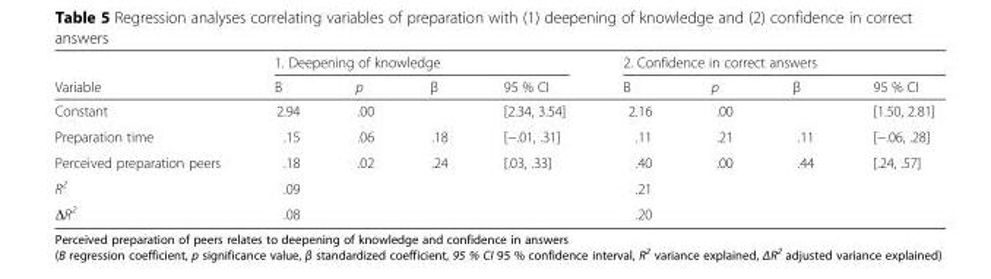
<table><thead><tr><td rowspan="2">Variable</td><td colspan="4">1. Deepening of knowledge</td><td colspan="4">2. Confidence in correct answers</td></tr><tr><td>B</td><td>p</td><td>β</td><td>95 % CI</td><td>B</td><td>p</td><td>β</td><td>95 % CI</td></tr></thead><tbody><tr><td>Constant</td><td>2.94</td><td>.00</td><td></td><td>[2.34, 3.54]</td><td>2.16</td><td>.00</td><td></td><td>[1.50, 2.81]</td></tr><tr><td>Preparation time</td><td>.15</td><td>.06</td><td>.18</td><td>[−.01, .31]</td><td>.11</td><td>.21</td><td>.11</td><td>[−.06, .28]</td></tr><tr><td>Perceived preparation peers</td><td>.18</td><td>.02</td><td>.24</td><td>[.03, .33]</td><td>.40</td><td>.00</td><td>.44</td><td>[.24, .57]</td></tr><tr><td>R<sup>2</sup></td><td>.09</td><td></td><td></td><td></td><td>.21</td><td></td><td></td><td></td></tr><tr><td>ΔR<sup>2</sup></td><td>.08</td><td></td><td></td><td></td><td>.20</td><td></td><td></td><td></td></tr></tbody></table>